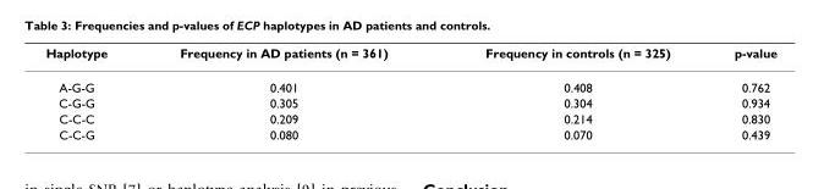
<table><thead><tr><td>Haplotype</td><td>Frequency in AD patients (n = 361)</td><td>Frequency in controls (n = 325)</td><td>p-value</td></tr></thead><tbody><tr><td>A-G-G</td><td>0.401</td><td>0.408</td><td>0.762</td></tr><tr><td>C-G-G</td><td>0.305</td><td>0.304</td><td>0.934</td></tr><tr><td>C-C-C</td><td>0.209</td><td>0.214</td><td>0.830</td></tr><tr><td>C-C-G</td><td>0.080</td><td>0.070</td><td>0.439</td></tr></tbody></table>